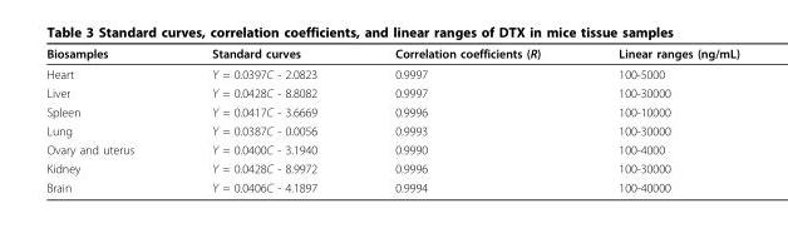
<table><thead><tr><td>Biosamples</td><td>Standard curves</td><td>Correlation coefficients (R)</td><td>Linear ranges (ng/mL)</td></tr></thead><tbody><tr><td>Heart</td><td>Y = 0.0397C - 2.0823</td><td>0.9997</td><td>100-5000</td></tr><tr><td>Liver</td><td>Y = 0.0428C - 8.8082</td><td>0.9997</td><td>100-30000</td></tr><tr><td>Spleen</td><td>Y = 0.0417C - 3.6669</td><td>0.9996</td><td>100-10000</td></tr><tr><td>Lung</td><td>Y = 0.0387C - 0.0056</td><td>0.9993</td><td>100-30000</td></tr><tr><td>Ovary and uterus</td><td>Y = 0.0400C - 3.1940</td><td>0.9990</td><td>100-4000</td></tr><tr><td>Kidney</td><td>Y = 0.0428C - 8.9972</td><td>0.9996</td><td>100-30000</td></tr><tr><td>Brain</td><td>Y = 0.0406C - 4.1897</td><td>0.9994</td><td>100-40000</td></tr></tbody></table>